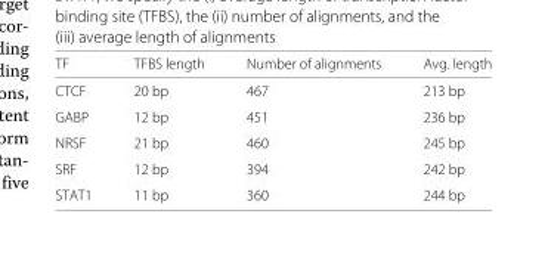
<table><thead><tr><td>TF</td><td>TFBS length</td><td>Number of alignments</td><td>Avg. length</td></tr></thead><tbody><tr><td>CTCF</td><td>20 bp</td><td>467</td><td>213 bp</td></tr><tr><td>GABP</td><td>12 bp</td><td>451</td><td>236 bp</td></tr><tr><td>NRSF</td><td>21 bp</td><td>460</td><td>245 bp</td></tr><tr><td>SRF</td><td>12 bp</td><td>394</td><td>242 bp</td></tr><tr><td>STAT1</td><td>11 bp</td><td>360</td><td>244 bp</td></tr></tbody></table>